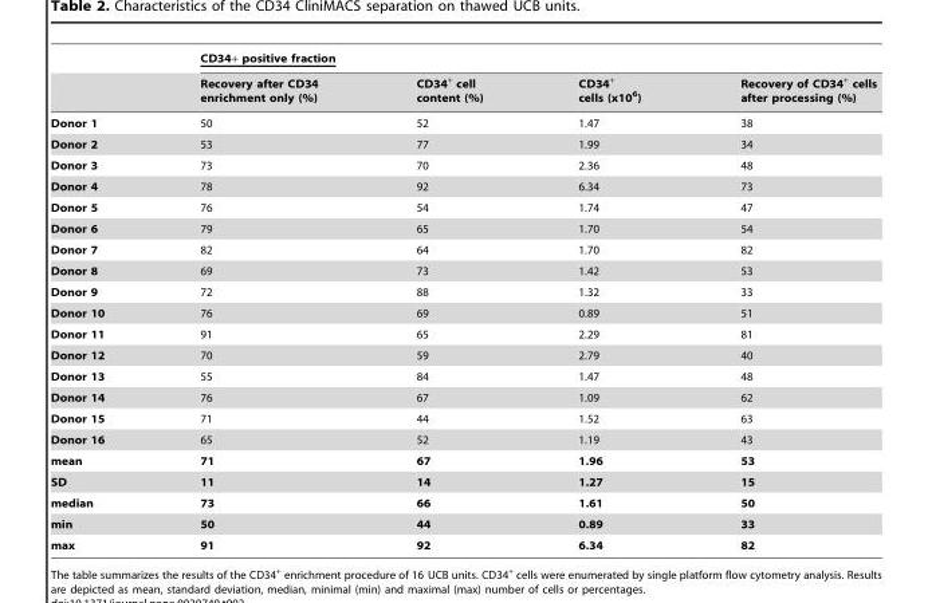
<table><thead><tr><td rowspan="2"></td><td colspan="4">CD34+ positive fraction</td></tr><tr><td>Recovery after CD34 enrichment only (%)</td><td>CD34<sup>+</sup> cell content (%)</td><td>CD34<sup>+</sup> cells (x10<sup>6</sup>)</td><td>Recovery of CD34<sup>+</sup> cells after processing (%)</td></tr></thead><tbody><tr><td>Donor 1</td><td>50</td><td>52</td><td>1.47</td><td>38</td></tr><tr><td>Donor 2</td><td>53</td><td>77</td><td>1.99</td><td>34</td></tr><tr><td>Donor 3</td><td>73</td><td>70</td><td>2.36</td><td>48</td></tr><tr><td>Donor 4</td><td>78</td><td>92</td><td>6.34</td><td>73</td></tr><tr><td>Donor 5</td><td>76</td><td>54</td><td>1.74</td><td>47</td></tr><tr><td>Donor 6</td><td>79</td><td>65</td><td>1.70</td><td>54</td></tr><tr><td>Donor 7</td><td>82</td><td>64</td><td>1.70</td><td>82</td></tr><tr><td>Donor 8</td><td>69</td><td>73</td><td>1.42</td><td>53</td></tr><tr><td>Donor 9</td><td>72</td><td>88</td><td>1.32</td><td>33</td></tr><tr><td>Donor 10</td><td>76</td><td>69</td><td>0.89</td><td>51</td></tr><tr><td>Donor 11</td><td>91</td><td>65</td><td>2.29</td><td>81</td></tr><tr><td>Donor 12</td><td>70</td><td>59</td><td>2.79</td><td>40</td></tr><tr><td>Donor 13</td><td>55</td><td>84</td><td>1.47</td><td>48</td></tr><tr><td>Donor 14</td><td>76</td><td>67</td><td>1.09</td><td>62</td></tr><tr><td>Donor 15</td><td>71</td><td>44</td><td>1.52</td><td>63</td></tr><tr><td>Donor 16</td><td>65</td><td>52</td><td>1.19</td><td>43</td></tr><tr><td>mean</td><td>71</td><td>67</td><td>1.96</td><td>53</td></tr><tr><td>SD</td><td>11</td><td>14</td><td>1.27</td><td>15</td></tr><tr><td>median</td><td>73</td><td>66</td><td>1.61</td><td>50</td></tr><tr><td>min</td><td>50</td><td>44</td><td>0.89</td><td>33</td></tr><tr><td>max</td><td>91</td><td>92</td><td>6.34</td><td>82</td></tr></tbody></table>